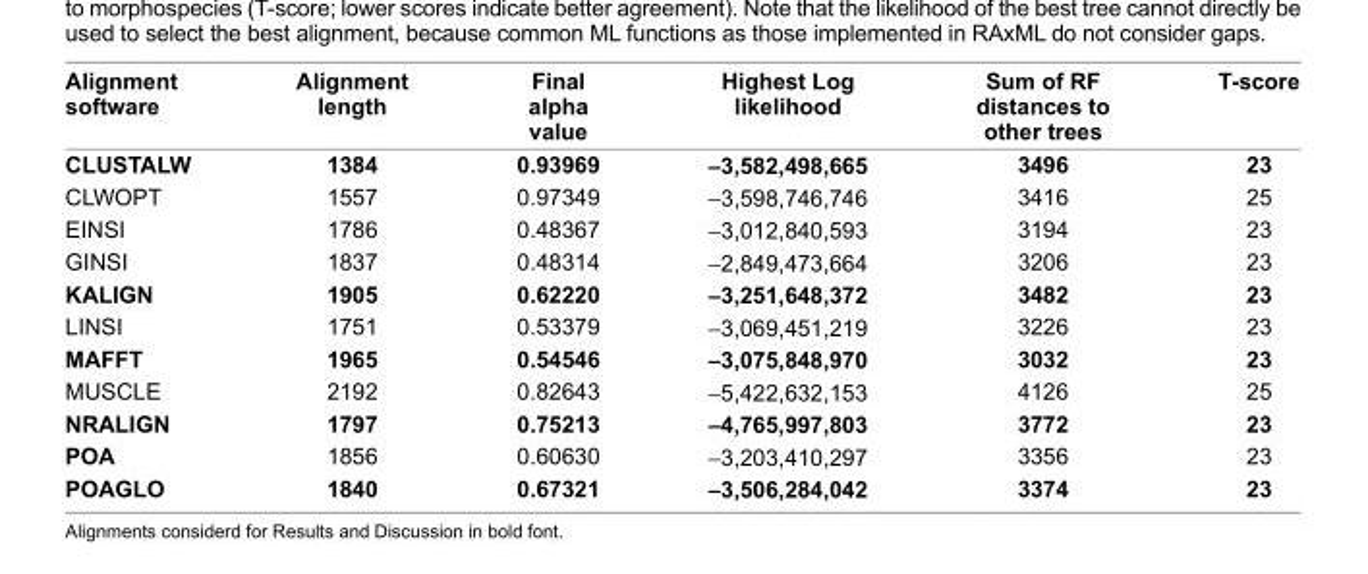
<table><thead><tr><td>Alignment software</td><td>Alignment length</td><td>Final alpha value</td><td>Highest Log likelihood</td><td>sum of RF distances to other trees</td><td>T-score</td></tr></thead><tbody><tr><td>cLUsTALW</td><td>1384</td><td>0.93969</td><td>-3,582,498,665</td><td>3496</td><td>23</td></tr><tr><td>CLWoPT</td><td>1557</td><td>0.97349</td><td>−3,598,746,746</td><td>3416</td><td>25</td></tr><tr><td>eINSI</td><td>1786</td><td>0.48367</td><td>−3,012,840,593</td><td>3194</td><td>23</td></tr><tr><td>gINSI</td><td>1837</td><td>0.48314</td><td>−2,849,473,664</td><td>3206</td><td>23</td></tr><tr><td>KALIGn</td><td>1905</td><td>0.62220</td><td>-3,251,648,372</td><td>3482</td><td>23</td></tr><tr><td>LINSI</td><td>1751</td><td>0.53379</td><td>−3,069,451,219</td><td>3226</td><td>23</td></tr><tr><td>MAFFT</td><td>1965</td><td>0.54546</td><td>-3,075,848,970</td><td>3032</td><td>23</td></tr><tr><td>MUSCLe</td><td>2192</td><td>0.82643</td><td>−5,422,632,153</td><td>4126</td><td>25</td></tr><tr><td>nRALIGn</td><td>1797</td><td>0.75213</td><td>-4,765,997,803</td><td>3772</td><td>23</td></tr><tr><td>pOA</td><td>1856</td><td>0.60630</td><td>−3,203,410,297</td><td>3356</td><td>23</td></tr><tr><td>pOAGLO</td><td>1840</td><td>0.67321</td><td>-3,506,284,042</td><td>3374</td><td>23</td></tr></tbody></table>